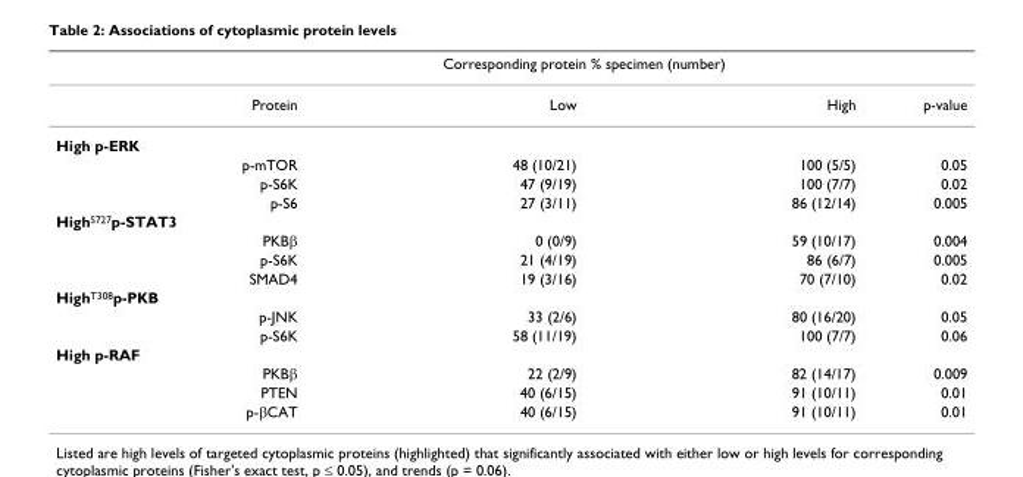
<table><thead><tr><td rowspan="2">Protein</td><td colspan="2">Corresponding protein % specimen (number)</td><td rowspan="2">p-value</td></tr><tr><td>Low</td><td>High</td></tr></thead><tbody><tr><td colspan="4">High p-ERK</td></tr><tr><td>p-mTOR</td><td>48 (10/21)</td><td>100 (5/5)</td><td>0.05</td></tr><tr><td>p-S6K</td><td>47 (9/19)</td><td>100 (7/7)</td><td>0.02</td></tr><tr><td>p-S6</td><td>27 (3/11)</td><td>86 (12/14)</td><td>0.005</td></tr><tr><td colspan="4">High<sup>S727</sup>p-STAT3</td></tr><tr><td>PKBβ</td><td>0 (0/9)</td><td>59 (10/17)</td><td>0.004</td></tr><tr><td>p-S6K</td><td>21 (4/19)</td><td>86 (6/7)</td><td>0.005</td></tr><tr><td>SMAD4</td><td>19 (3/16)</td><td>70 (7/10)</td><td>0.02</td></tr><tr><td colspan="4">High<sup>T308</sup>p-PKB</td></tr><tr><td>p-JNK</td><td>33 (2/6)</td><td>80 (16/20)</td><td>0.05</td></tr><tr><td>p-S6K</td><td>58 (11/19)</td><td>100 (7/7)</td><td>0.06</td></tr><tr><td colspan="4">High p-RAF</td></tr><tr><td>PKBβ</td><td>22 (2/9)</td><td>82 (14/17)</td><td>0.009</td></tr><tr><td>PTEN</td><td>40 (6/15)</td><td>91 (10/11)</td><td>0.01</td></tr><tr><td>p-βCAT</td><td>40 (6/15)</td><td>91 (10/11)</td><td>0.01</td></tr></tbody></table>